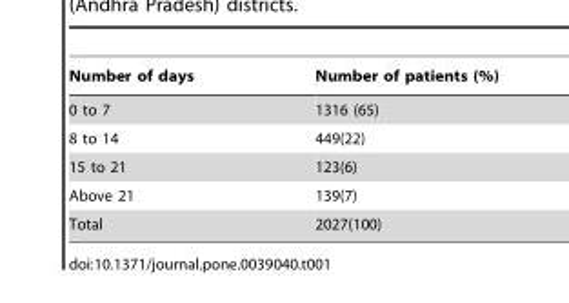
<table><thead><tr><td>Number of days</td><td>Number of patients (%)</td></tr></thead><tbody><tr><td>0 to 7</td><td>1316 (65)</td></tr><tr><td>8 to 14</td><td>449(22)</td></tr><tr><td>15 to 21</td><td>123(6)</td></tr><tr><td>Above 21</td><td>139(7)</td></tr><tr><td>Total</td><td>2027(100)</td></tr></tbody></table>